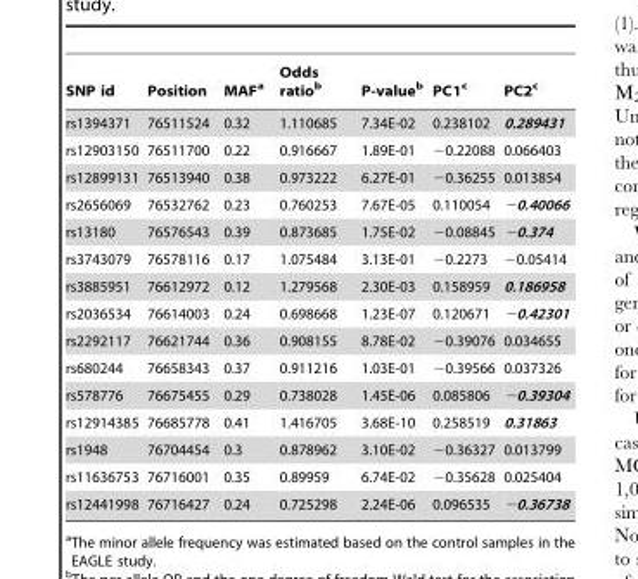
<table><thead><tr><td>SNP id</td><td>Position</td><td>MAF<sup>a</sup></td><td>Odds ratio<sup>b</sup></td><td>P-value<sup>b</sup></td><td>PC1<sup>c</sup></td><td>PC2<sup>c</sup></td></tr></thead><tbody><tr><td>rs1394371</td><td>76511524</td><td>0.32</td><td>1.110685</td><td>7.34E-02</td><td>0.238102</td><td>0.289431</td></tr><tr><td>rs12903150</td><td>76511700</td><td>0.22</td><td>0.916667</td><td>1.89E-01</td><td>−0.22088</td><td>0.066403</td></tr><tr><td>rs12899131</td><td>76513940</td><td>0.38</td><td>0.973222</td><td>6.27E-01</td><td>−0.36255</td><td>0.013854</td></tr><tr><td>rs2656069</td><td>76532762</td><td>0.23</td><td>0.760253</td><td>7.67E-05</td><td>0.110054</td><td>−0.40066</td></tr><tr><td>rs13180</td><td>76576543</td><td>0.39</td><td>0.873685</td><td>1.75E-02</td><td>−0.08845</td><td>−0.374</td></tr><tr><td>rs3743079</td><td>76578116</td><td>0.17</td><td>1.075484</td><td>3.13E-01</td><td>−0.2273</td><td>−0.05414</td></tr><tr><td>rs3885951</td><td>76612972</td><td>0.12</td><td>1.279568</td><td>2.30E-03</td><td>0.158959</td><td>0.186958</td></tr><tr><td>rs2036534</td><td>76614003</td><td>0.24</td><td>0.698668</td><td>1.23E-07</td><td>0.120671</td><td>−0.42301</td></tr><tr><td>rs2292117</td><td>76621744</td><td>0.36</td><td>0.908155</td><td>8.78E-02</td><td>−0.39076</td><td>0.034655</td></tr><tr><td>rs680244</td><td>76658343</td><td>0.37</td><td>0.911216</td><td>1.03E-01</td><td>−0.39566</td><td>0.037326</td></tr><tr><td>rs578776</td><td>76675455</td><td>0.29</td><td>0.738028</td><td>1.45E-06</td><td>0.085806</td><td>−0.39304</td></tr><tr><td>rs12914385</td><td>76685778</td><td>0.41</td><td>1.416705</td><td>3.68E-10</td><td>0.258519</td><td>0.31863</td></tr><tr><td>rs1948</td><td>76704454</td><td>0.3</td><td>0.878962</td><td>3.10E-02</td><td>−0.36327</td><td>0.013799</td></tr><tr><td>rs11636753</td><td>76716001</td><td>0.35</td><td>0.89959</td><td>6.74E-02</td><td>−0.35628</td><td>0.025404</td></tr><tr><td>rs12441998</td><td>76716427</td><td>0.24</td><td>0.725298</td><td>2.24E-06</td><td>0.096535</td><td>−0.36738</td></tr></tbody></table>